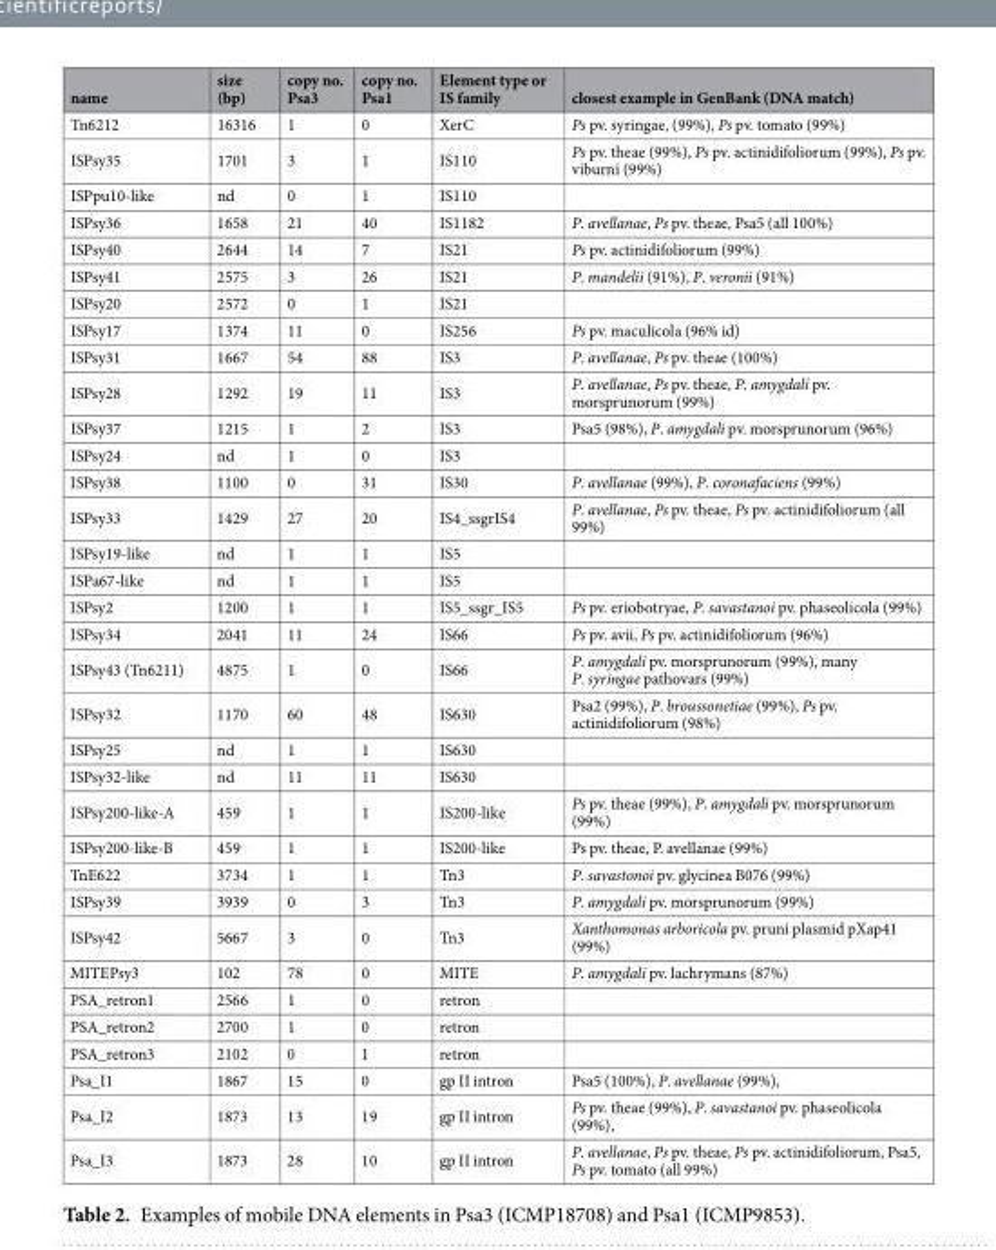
<table><thead><tr><td>name</td><td>size (bp)</td><td>copy no. Psa3</td><td>copy no. Psa1</td><td>Element type or IS family</td><td>closest example in GenBank (DNA match)</td></tr></thead><tbody><tr><td>Tn6212</td><td>16316</td><td>1</td><td>0</td><td>XerC</td><td>Ps pv. syringae, (99%), Ps pv. tomato (99%)</td></tr><tr><td>ISPsy35</td><td>1701</td><td>3</td><td>1</td><td>IS110</td><td>Ps pv. theae (99%), Ps pv. actinidifoliorum (99%), Ps pv. viburni (99%)</td></tr><tr><td>ISPpu10-like</td><td>nd</td><td>0</td><td>1</td><td>IS110</td><td></td></tr><tr><td>ISPsy36</td><td>1658</td><td>21</td><td>40</td><td>IS1182</td><td>P. avellanae, Ps pv. theae, Psa5 (all 100%)</td></tr><tr><td>ISPsy40</td><td>2644</td><td>14</td><td>7</td><td>IS21</td><td>Ps pv. actinidifoliorum (99%)</td></tr><tr><td>ISPsy41</td><td>2575</td><td>3</td><td>26</td><td>IS21</td><td>P. mandelii (91%), P. veronii (91%)</td></tr><tr><td>ISPsy20</td><td>2572</td><td>0</td><td>1</td><td>IS21</td><td></td></tr><tr><td>ISPsy17</td><td>1374</td><td>11</td><td>0</td><td>IS256</td><td>Ps pv. maculicola (96% id)</td></tr><tr><td>ISPsy31</td><td>1667</td><td>54</td><td>88</td><td>IS3</td><td>P. avellanae, Ps pv. theae (100%)</td></tr><tr><td>ISPsy28</td><td>1292</td><td>19</td><td>11</td><td>IS3</td><td>P. avellanae, Ps pv. theae, P. amygdali pv. morsprunorum (99%)</td></tr><tr><td>ISPsy37</td><td>1215</td><td>1</td><td>2</td><td>IS3</td><td>Psa5 (98%), P. amygdali pv. morsprunorum (96%)</td></tr><tr><td>ISPsy24</td><td>nd</td><td>1</td><td>0</td><td>IS3</td><td></td></tr><tr><td>ISPsy38</td><td>1100</td><td>0</td><td>31</td><td>IS30</td><td>P. avellanae (99%), P. coronafaciens (99%)</td></tr><tr><td>ISPsy33</td><td>1429</td><td>27</td><td>20</td><td>IS4_ssgrIS4</td><td>P. avellanae, Ps pv. theae, Ps pv. actinidifoliorum (all 99%)</td></tr><tr><td>ISPsy19-like</td><td>nd</td><td>1</td><td>1</td><td>IS5</td><td></td></tr><tr><td>ISPa67-like</td><td>nd</td><td>1</td><td>1</td><td>IS5</td><td></td></tr><tr><td>ISPsy2</td><td>1200</td><td>1</td><td>1</td><td>IS5_ssgr_IS5</td><td>Ps pv. eriobotryae, P. savastanoi pv. phaseolicola (99%)</td></tr><tr><td>ISPsy34</td><td>2041</td><td>11</td><td>24</td><td>IS66</td><td>Ps pv. avii, Ps pv. actinidifoliorum (96%)</td></tr><tr><td>ISPsy43 (Tn6211)</td><td>4875</td><td>1</td><td>0</td><td>IS66</td><td>P. amygdali pv. morsprunorum (99%), many P. syringae pathovars (99%)</td></tr><tr><td>ISPsy32</td><td>1170</td><td>60</td><td>48</td><td>IS630</td><td>Psa2 (99%), P. broussonetiae (99%), Ps pv. actinidifoliorum (98%)</td></tr><tr><td>ISPsy25</td><td>nd</td><td>1</td><td>1</td><td>IS630</td><td></td></tr><tr><td>ISPsy32-like</td><td>nd</td><td>11</td><td>11</td><td>IS630</td><td></td></tr><tr><td>ISPsy200-like-A</td><td>459</td><td>1</td><td>1</td><td>IS200-like</td><td>Ps pv. theae (99%), P. amygdali pv. morsprunorum (99%)</td></tr><tr><td>ISPsy200-like-B</td><td>459</td><td>1</td><td>1</td><td>IS200-like</td><td>Ps pv. theae, P. avellanae (99%)</td></tr><tr><td>TnE622</td><td>3734</td><td>1</td><td>1</td><td>Tn3</td><td>P. savastonoi pv. glycinea B076 (99%)</td></tr><tr><td>ISPsy39</td><td>3939</td><td>0</td><td>3</td><td>Tn3</td><td>P. amygdali pv. morsprunorum (99%)</td></tr><tr><td>ISPsy42</td><td>5667</td><td>3</td><td>0</td><td>Tn3</td><td>Xanthomonas arboricola pv. pruni plasmid pXap41 (99%)</td></tr><tr><td>MITEPsy3</td><td>102</td><td>78</td><td>0</td><td>MITE</td><td>P. amygdali pv. lachrymans (87%)</td></tr><tr><td>PSA_retron1</td><td>2566</td><td>1</td><td>0</td><td>retron</td><td></td></tr><tr><td>PSA_retron2</td><td>2700</td><td>1</td><td>0</td><td>retron</td><td></td></tr><tr><td>PSA_retron3</td><td>2102</td><td>0</td><td>1</td><td>retron</td><td></td></tr><tr><td>Psa_I1</td><td>1867</td><td>15</td><td>0</td><td>gp II intron</td><td>Psa5 (100%), P. avellanae (99%),</td></tr><tr><td>Psa_I2</td><td>1873</td><td>13</td><td>19</td><td>gp II intron</td><td>Ps pv. theae (99%), P. savastanoi pv. phaseolicola (99%),</td></tr><tr><td>Psa_I3</td><td>1873</td><td>28</td><td>10</td><td>gp II intron</td><td>P. avellanae, Ps pv. theae, Ps pv. actinidifoliorum, Psa5, Ps pv. tomato (all 99%)</td></tr></tbody></table>